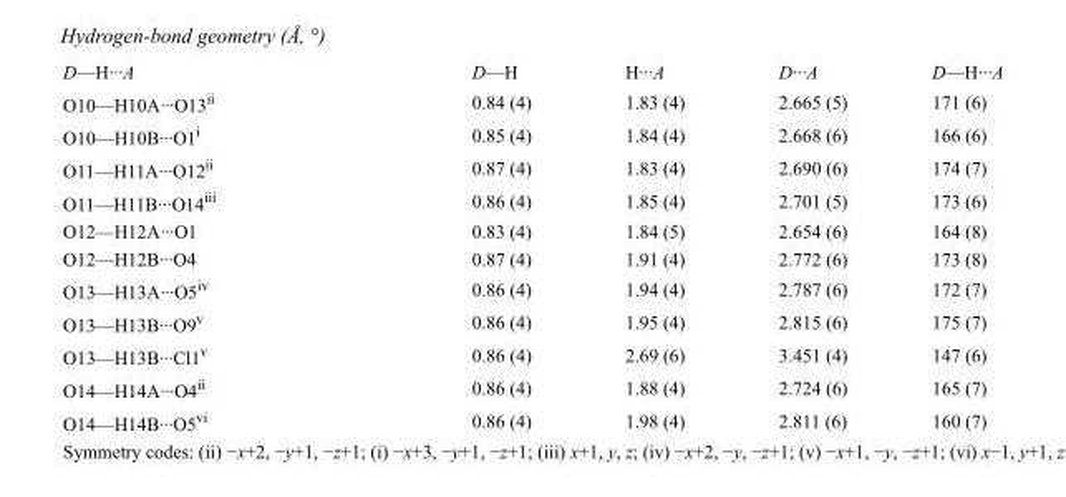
<table><tbody><tr><td>D—H···A</td><td>D—H</td><td>H···A</td><td>D···A</td><td>D—H···A</td></tr><tr><td>O10—H10A···O13<sup>ii</sup></td><td>0.84 (4)</td><td>1.83 (4)</td><td>2.665 (5)</td><td>171 (6)</td></tr><tr><td>O10—H10B···O1<sup>i</sup></td><td>0.85 (4)</td><td>1.84 (4)</td><td>2.668 (6)</td><td>166 (6)</td></tr><tr><td>O11—H11A···O12<sup>ii</sup></td><td>0.87 (4)</td><td>1.83 (4)</td><td>2.690 (6)</td><td>174 (7)</td></tr><tr><td>O11—H11B···O14<sup>iii</sup></td><td>0.86 (4)</td><td>1.85 (4)</td><td>2.701 (5)</td><td>173 (6)</td></tr><tr><td>O12—H12A···O1</td><td>0.83 (4)</td><td>1.84 (5)</td><td>2.654 (6)</td><td>164 (8)</td></tr><tr><td>O12—H12B···O4</td><td>0.87 (4)</td><td>1.91 (4)</td><td>2.772 (6)</td><td>173 (8)</td></tr><tr><td>O13—H13A···O5<sup>iv</sup></td><td>0.86 (4)</td><td>1.94 (4)</td><td>2.787 (6)</td><td>172 (7)</td></tr><tr><td>O13—H13B···O9<sup>v</sup></td><td>0.86 (4)</td><td>1.95 (4)</td><td>2.815 (6)</td><td>175 (7)</td></tr><tr><td>O13—H13B···Cl1<sup>v</sup></td><td>0.86 (4)</td><td>2.69 (6)</td><td>3.451 (4)</td><td>147 (6)</td></tr><tr><td>O14—H14A···O4<sup>ii</sup></td><td>0.86 (4)</td><td>1.88 (4)</td><td>2.724 (6)</td><td>165 (7)</td></tr><tr><td>O14—H14B···O5<sup>vi</sup></td><td>0.86 (4)</td><td>1.98 (4)</td><td>2.811 (6)</td><td>160 (7)</td></tr></tbody></table>